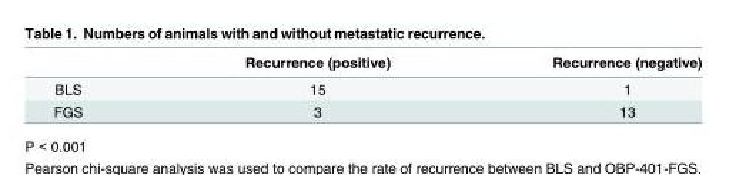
<table><thead><tr><td></td><td>Recurrence (positive)</td><td>Recurrence (negative)</td></tr></thead><tbody><tr><td>BLS</td><td>15</td><td>1</td></tr><tr><td>FGS</td><td>3</td><td>13</td></tr></tbody></table>